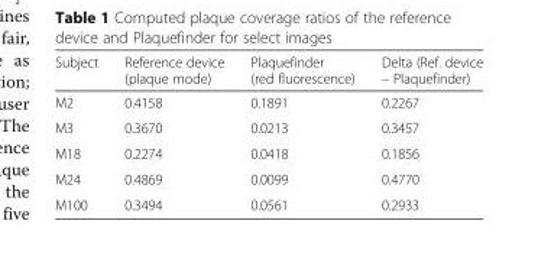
<table><thead><tr><td>Subject</td><td>Reference device (plaque mode)</td><td>Plaquefinder (red fluorescence)</td><td>Delta (Ref. device – Plaquefinder)</td></tr></thead><tbody><tr><td>M2</td><td>0.4158</td><td>0.1891</td><td>0.2267</td></tr><tr><td>M3</td><td>0.3670</td><td>0.0213</td><td>0.3457</td></tr><tr><td>M18</td><td>0.2274</td><td>0.0418</td><td>0.1856</td></tr><tr><td>M24</td><td>0.4869</td><td>0.0099</td><td>0.4770</td></tr><tr><td>M100</td><td>0.3494</td><td>0.0561</td><td>0.2933</td></tr></tbody></table>